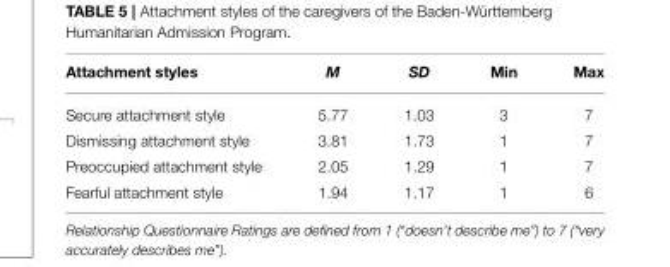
<table><thead><tr><td>Attachment styles</td><td>M</td><td>SD</td><td>Min</td><td>Max</td></tr></thead><tbody><tr><td>Secure attachment style</td><td>5.77</td><td>1.03</td><td>3</td><td>7</td></tr><tr><td>Dismissing attachment style</td><td>3.81</td><td>1.73</td><td>1</td><td>7</td></tr><tr><td>Preoccupied attachment style</td><td>2.05</td><td>1.29</td><td>1</td><td>7</td></tr><tr><td>Fearful attachment style</td><td>1.94</td><td>1.17</td><td>1</td><td>6</td></tr></tbody></table>